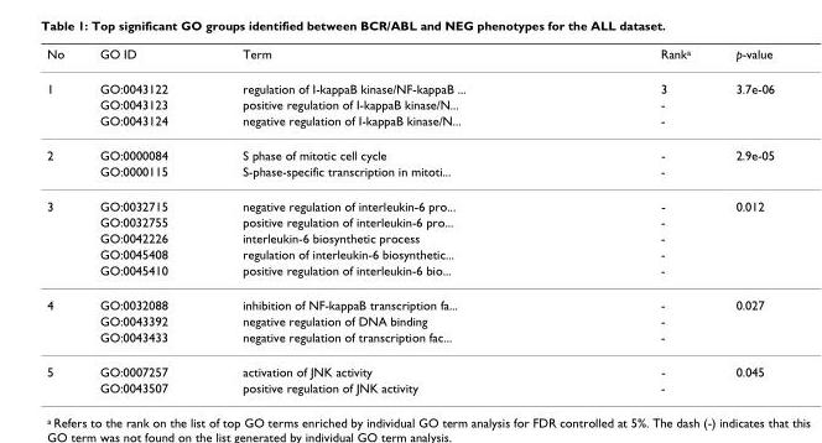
<table><thead><tr><td>No</td><td>GO ID</td><td>Term</td><td>Rank<sup>a</sup></td><td>p-value</td></tr></thead><tbody><tr><td rowspan="3">1</td><td>GO:0043122</td><td>regulation of I-kappaB kinase/NF-kappaB ...</td><td>3</td><td>3.7e-06</td></tr><tr><td>GO:0043123</td><td>positive regulation of I-kappaB kinase/N...</td><td>-</td><td></td></tr><tr><td>GO:0043124</td><td>negative regulation of I-kappaB kinase/N...</td><td>-</td><td></td></tr><tr><td rowspan="2">2</td><td>GO:0000084</td><td>S phase of mitotic cell cycle</td><td>-</td><td>2.9e-05</td></tr><tr><td>GO:0000115</td><td>S-phase-specific transcription in mitoti...</td><td>-</td><td></td></tr><tr><td rowspan="5">3</td><td>GO:0032715</td><td>negative regulation of interleukin-6 pro...</td><td>-</td><td>0.012</td></tr><tr><td>GO:0032755</td><td>positive regulation of interleukin-6 pro...</td><td>-</td><td></td></tr><tr><td>GO:0042226</td><td>interleukin-6 biosynthetic process</td><td>-</td><td></td></tr><tr><td>GO:0045408</td><td>regulation of interleukin-6 biosynthetic...</td><td>-</td><td></td></tr><tr><td>GO:0045410</td><td>positive regulation of interleukin-6 bio...</td><td>-</td><td></td></tr><tr><td rowspan="3">4</td><td>GO:0032088</td><td>inhibition of NF-kappaB transcription fa...</td><td>-</td><td>0.027</td></tr><tr><td>GO:0043392</td><td>negative regulation of DNA binding</td><td>-</td><td></td></tr><tr><td>GO:0043433</td><td>negative regulation of transcription fac...</td><td>-</td><td></td></tr><tr><td rowspan="2">5</td><td>GO:0007257</td><td>activation of JNK activity</td><td>-</td><td>0.045</td></tr><tr><td>GO:0043507</td><td>positive regulation of JNK activity</td><td>-</td><td></td></tr></tbody></table>